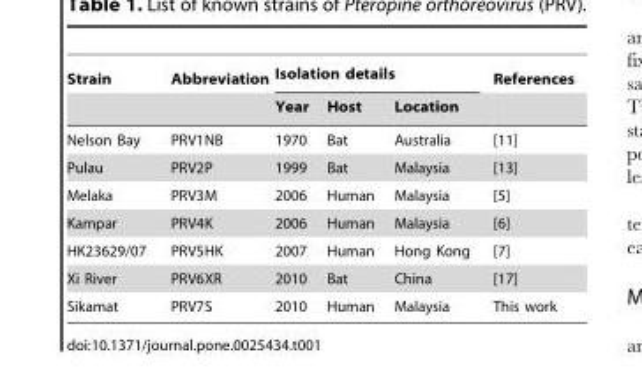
<table><thead><tr><td rowspan="2">Strain</td><td rowspan="2">Abbreviation</td><td colspan="3">Isolation details</td><td rowspan="2">References</td></tr><tr><td>Year</td><td>Host</td><td>Location</td></tr></thead><tbody><tr><td>Nelson Bay</td><td>PRV1NB</td><td>1970</td><td>Bat</td><td>Australia</td><td>[11]</td></tr><tr><td>Pulau</td><td>PRV2P</td><td>1999</td><td>Bat</td><td>Malaysia</td><td>[13]</td></tr><tr><td>Melaka</td><td>PRV3M</td><td>2006</td><td>Human</td><td>Malaysia</td><td>[5]</td></tr><tr><td>Kampar</td><td>PRV4K</td><td>2006</td><td>Human</td><td>Malaysia</td><td>[6]</td></tr><tr><td>HK23629/07</td><td>PRV5HK</td><td>2007</td><td>Human</td><td>Hong Kong</td><td>[7]</td></tr><tr><td>Xi River</td><td>PRV6XR</td><td>2010</td><td>Bat</td><td>China</td><td>[17]</td></tr><tr><td>Sikamat</td><td>PRV7S</td><td>2010</td><td>Human</td><td>Malaysia</td><td>This work</td></tr></tbody></table>